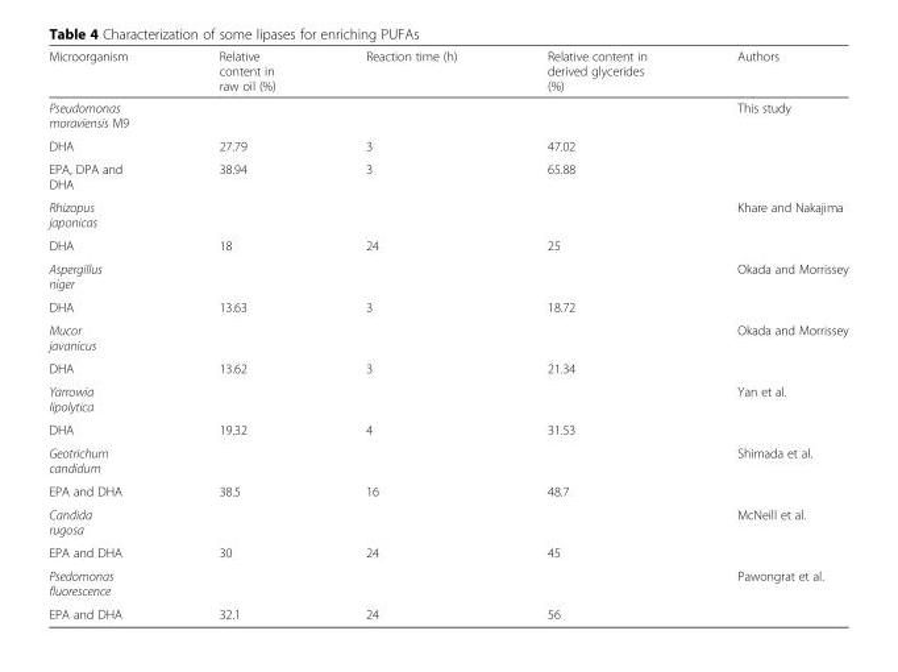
<table><thead><tr><td>Microorganism</td><td>Relative content in raw oil (%)</td><td>Reaction time (h)</td><td>Relative content in derived glycerides (%)</td><td>Authors</td></tr></thead><tbody><tr><td>Pseudomonas moraviensis M9</td><td></td><td></td><td></td><td>This study</td></tr><tr><td>DHA</td><td>27.79</td><td>3</td><td>47.02</td><td></td></tr><tr><td>EPA, DPA and DHA</td><td>38.94</td><td>3</td><td>65.88</td><td></td></tr><tr><td>Rhizopus japonicas</td><td></td><td></td><td></td><td>Khare and Nakajima</td></tr><tr><td>DHA</td><td>18</td><td>24</td><td>25</td><td></td></tr><tr><td>Aspergillus niger</td><td></td><td></td><td></td><td>Okada and Morrissey</td></tr><tr><td>DHA</td><td>13.63</td><td>3</td><td>18.72</td><td></td></tr><tr><td>Mucor javanicus</td><td></td><td></td><td></td><td>Okada and Morrissey</td></tr><tr><td>DHA</td><td>13.62</td><td>3</td><td>21.34</td><td></td></tr><tr><td>Yarrowia lipolytica</td><td></td><td></td><td></td><td>Yan et al.</td></tr><tr><td>DHA</td><td>19.32</td><td>4</td><td>31.53</td><td></td></tr><tr><td>Geotrichum candidum</td><td></td><td></td><td></td><td>Shimada et al.</td></tr><tr><td>EPA and DHA</td><td>38.5</td><td>16</td><td>48.7</td><td></td></tr><tr><td>Candida rugosa</td><td></td><td></td><td></td><td>McNeill et al.</td></tr><tr><td>EPA and DHA</td><td>30</td><td>24</td><td>45</td><td></td></tr><tr><td>Psedomonas fluorescence</td><td></td><td></td><td></td><td>Pawongrat et al.</td></tr><tr><td>EPA and DHA</td><td>32.1</td><td>24</td><td>56</td><td></td></tr></tbody></table>